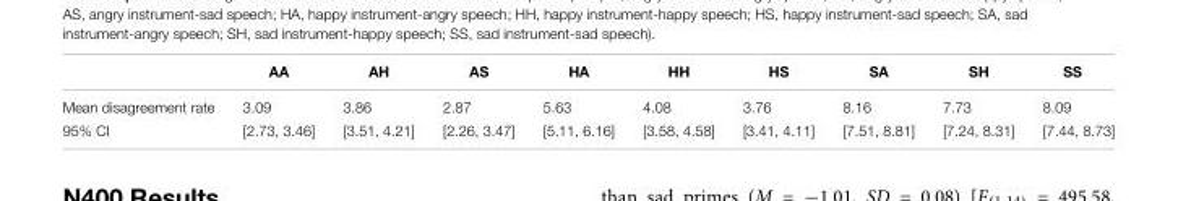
<table><thead><tr><td></td><td>AA</td><td>AH</td><td>AS</td><td>HA</td><td>HH</td><td>HS</td><td>SA</td><td>SH</td><td>SS</td></tr></thead><tbody><tr><td>Mean disagreement rate</td><td>3.09</td><td>3.86</td><td>2.87</td><td>5.63</td><td>4.08</td><td>3.76</td><td>8.16</td><td>7.73</td><td>8.09</td></tr><tr><td>95% CI</td><td>[2.73, 3.46]</td><td>[3.51, 4.21]</td><td>[2.26, 3.47]</td><td>[5.11, 6.16]</td><td>[3.58, 4.58]</td><td>[3.41, 4.11]</td><td>[7.51, 8.81]</td><td>[7.24, 8.31]</td><td>[7.44, 8.73]</td></tr></tbody></table>